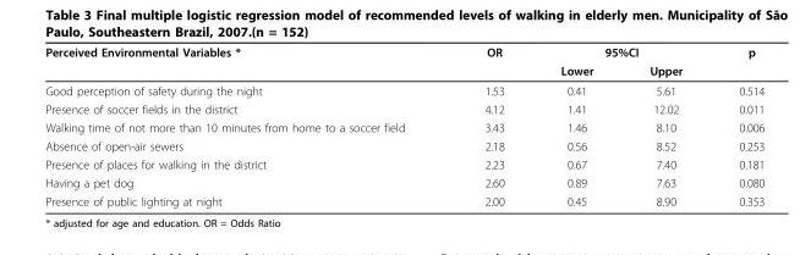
<table><thead><tr><td rowspan="2">Perceived Environmental Variables *</td><td rowspan="2">OR</td><td colspan="2">95%CI</td><td rowspan="2">p</td></tr><tr><td>Lower</td><td>Upper</td></tr></thead><tbody><tr><td>Good perception of safety during the night</td><td>1.53</td><td>0.41</td><td>5.61</td><td>0.514</td></tr><tr><td>Presence of soccer fields in the district</td><td>4.12</td><td>1.41</td><td>12.02</td><td>0.011</td></tr><tr><td>Walking time of not more than 10 minutes from home to a soccer field</td><td>3.43</td><td>1.46</td><td>8.10</td><td>0.006</td></tr><tr><td>Absence of open-air sewers</td><td>2.18</td><td>0.56</td><td>8.52</td><td>0.253</td></tr><tr><td>Presence of places for walking in the district</td><td>2.23</td><td>0.67</td><td>7.40</td><td>0.181</td></tr><tr><td>Having a pet dog</td><td>2.60</td><td>0.89</td><td>7.63</td><td>0.080</td></tr><tr><td>Presence of public lighting at night</td><td>2.00</td><td>0.45</td><td>8.90</td><td>0.353</td></tr></tbody></table>